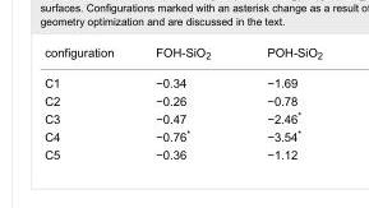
<table><tbody><tr><td>configuration</td><td>FOH-SiO<sub>2</sub></td><td>POH-SiO<sub>2</sub></td></tr><tr><td>C1</td><td>−0.34</td><td>−1.69</td></tr><tr><td>C2</td><td>−0.26</td><td>−0.78</td></tr><tr><td>C3</td><td>−0.47</td><td>−2.46*</td></tr><tr><td>C4</td><td>−0.76*</td><td>−3.54*</td></tr><tr><td>C5</td><td>−0.36</td><td>−1.12</td></tr></tbody></table>